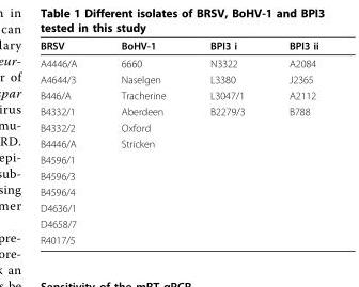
<table><thead><tr><td>BRSV</td><td>BoHV-1</td><td>BPI3 i</td><td>BPI3 ii</td></tr></thead><tbody><tr><td>A4446/A</td><td>6660</td><td>N3322</td><td>A2084</td></tr><tr><td>A4644/3</td><td>Naselgen</td><td>L3380</td><td>J2365</td></tr><tr><td>B446/A</td><td>Tracherine</td><td>L3047/1</td><td>A2112</td></tr><tr><td>B4332/1</td><td>Aberdeen</td><td>B2279/3</td><td>B788</td></tr><tr><td>B4332/2</td><td>Oxford</td><td></td><td></td></tr><tr><td>B4446/A</td><td>Stricken</td><td></td><td></td></tr><tr><td colspan="4">B4596/1</td></tr><tr><td colspan="4">B4596/3</td></tr><tr><td colspan="4">B4596/4</td></tr><tr><td colspan="4">D4636/1</td></tr><tr><td colspan="4">D4658/7</td></tr><tr><td>R4017/5</td><td></td><td></td><td></td></tr></tbody></table>